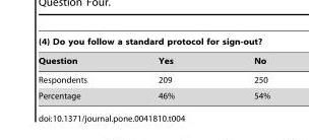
<table><thead><tr><td colspan="3">(4) Do you follow a standard protocol for sign-out?</td></tr><tr><td>Question</td><td>Yes</td><td>No</td></tr></thead><tbody><tr><td>Respondents</td><td>209</td><td>250</td></tr><tr><td>Percentage</td><td>46%</td><td>54%</td></tr></tbody></table>